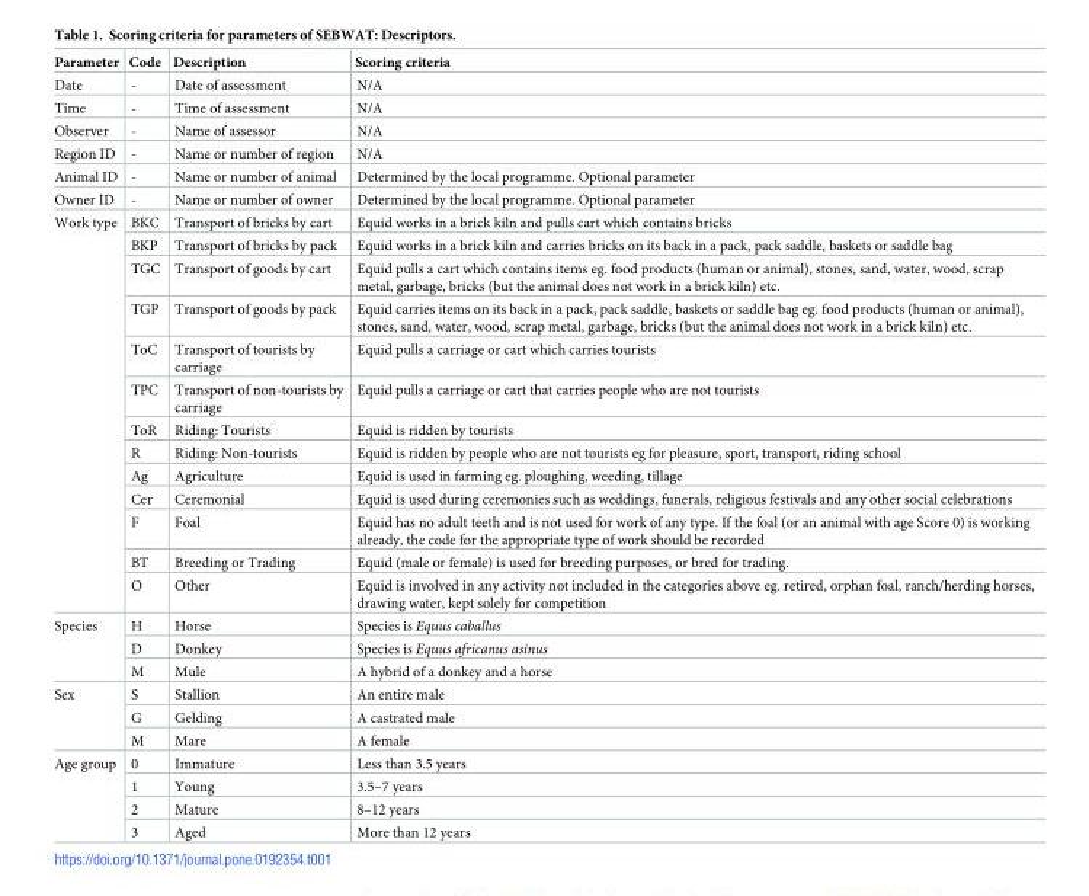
<table><thead><tr><td>Parameter</td><td>Code</td><td>Description</td><td>Scoring criteria</td></tr></thead><tbody><tr><td>Date</td><td>-</td><td>Date of assessment</td><td>N/A</td></tr><tr><td>Time</td><td>-</td><td>Time of assessment</td><td>N/A</td></tr><tr><td>Observer</td><td>-</td><td>Name of assessor</td><td>N/A</td></tr><tr><td>Region ID</td><td>-</td><td>Name or number of region</td><td>N/A</td></tr><tr><td>Animal ID</td><td>-</td><td>Name or number of animal</td><td>Determined by the local programme. Optional parameter</td></tr><tr><td>Owner ID</td><td>-</td><td>Name or number of owner</td><td>Determined by the local programme. Optional parameter</td></tr><tr><td rowspan="13">Work type</td><td>BKC</td><td>Transport of bricks by cart</td><td>Equid works in a brick kiln and pulls cart which contains bricks</td></tr><tr><td>BKP</td><td>Transport of bricks by pack</td><td>Equid works in a brick kiln and carries bricks on its back in a pack, pack saddle, baskets or saddle bag</td></tr><tr><td>TGC</td><td>Transport of goods by cart</td><td>Equid pulls a cart which contains items eg. food products (human or animal), stones, sand, water, wood, scrap metal, garbage, bricks (but the animal does not work in a brick kiln) etc.</td></tr><tr><td>TGP</td><td>Transport of goods by pack</td><td>Equid carries items on its back in a pack, pack saddle, baskets or saddle bag eg. food products (human or animal), stones, sand, water, wood, scrap metal, garbage, bricks (but the animal does not work in a brick kiln) etc.</td></tr><tr><td>ToC</td><td>Transport of tourists by carriage</td><td>Equid pulls a carriage or cart which carries tourists</td></tr><tr><td>TPC</td><td>Transport of non-tourists by carriage</td><td>Equid pulls a carriage or cart that carries people who are not tourists</td></tr><tr><td>ToR</td><td>Riding: Tourists</td><td>Equid is ridden by tourists</td></tr><tr><td>R</td><td>Riding: Non-tourists</td><td>Equid is ridden by people who are not tourists eg for pleasure, sport, transport, riding school</td></tr><tr><td>Ag</td><td>Agriculture</td><td>Equid is used in farming eg. ploughing, weeding, tillage</td></tr><tr><td>Cer</td><td>Ceremonial</td><td>Equid is used during ceremonies such as weddings, funerals, religious festivals and any other social celebrations</td></tr><tr><td>F</td><td>Foal</td><td>Equid has no adult teeth and is not used for work of any type. If the foal (or an animal with age Score 0) is working already, the code for the appropriate type of work should be recorded</td></tr><tr><td>BT</td><td>Breeding or Trading</td><td>Equid (male or female) is used for breeding purposes, or bred for trading.</td></tr><tr><td>O</td><td>Other</td><td>Equid is involved in any activity not included in the categories above eg. retired, orphan foal, ranch/herding horses, drawing water, kept solely for competition</td></tr><tr><td rowspan="3">Species</td><td>H</td><td>Horse</td><td>Species is Equus caballus</td></tr><tr><td>D</td><td>Donkey</td><td>Species is Equus africanus asinus</td></tr><tr><td>M</td><td>Mule</td><td>A hybrid of a donkey and a horse</td></tr><tr><td rowspan="3">Sex</td><td>S</td><td>Stallion</td><td>An entire male</td></tr><tr><td>G</td><td>Gelding</td><td>A castrated male</td></tr><tr><td>M</td><td>Mare</td><td>A female</td></tr><tr><td rowspan="4">Age group</td><td>0</td><td>Immature</td><td>Less than 3.5 years</td></tr><tr><td>1</td><td>Young</td><td>3.5–7 years</td></tr><tr><td>2</td><td>Mature</td><td>8–12 years</td></tr><tr><td>3</td><td>Aged</td><td>More than 12 years</td></tr></tbody></table>